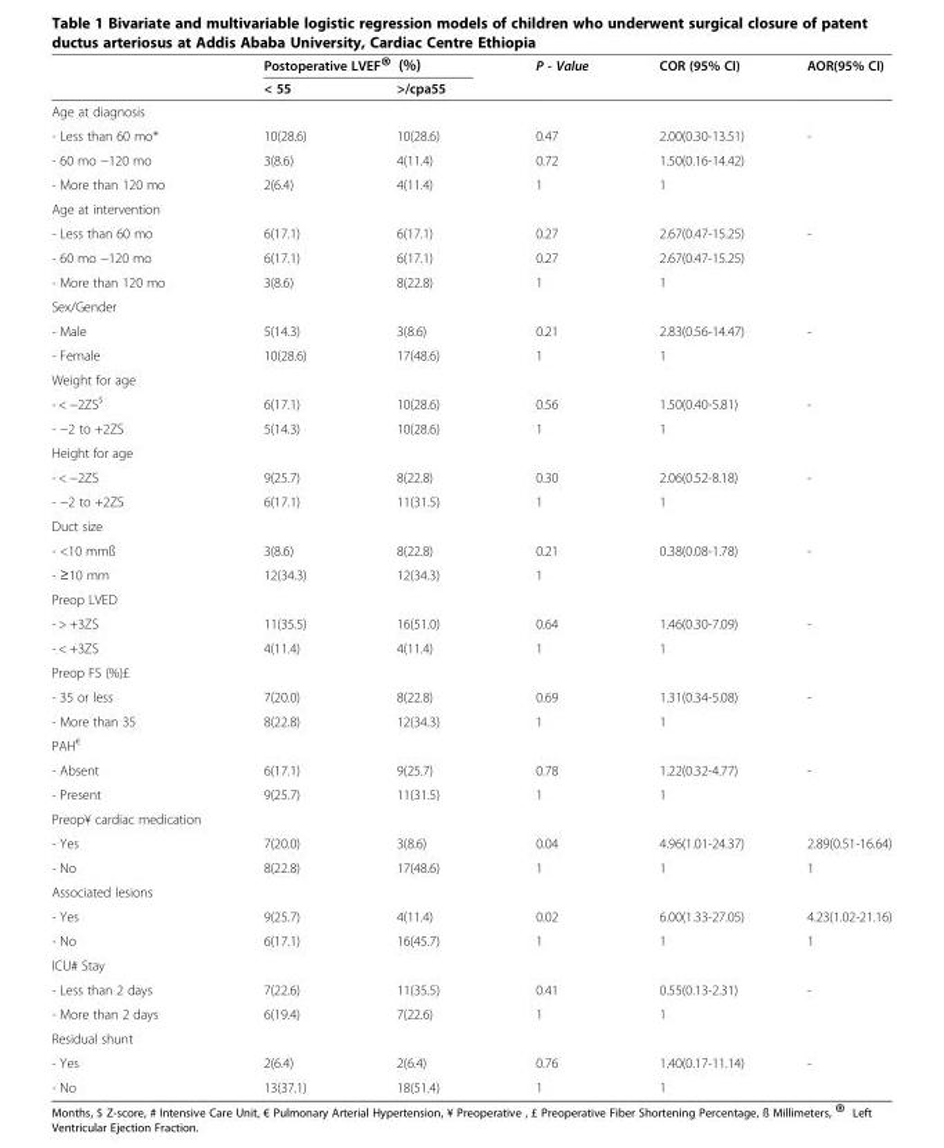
<table><thead><tr><td rowspan="2"></td><td colspan="2">Postoperative LVEF® (%)</td><td rowspan="2">P - Value</td><td rowspan="2">COR (95% CI)</td><td rowspan="2">AOR(95% CI)</td></tr><tr><td>&lt; 55</td><td>&gt;/cpa55</td></tr></thead><tbody><tr><td colspan="6">Age at diagnosis</td></tr><tr><td>- Less than 60 mo*</td><td>10(28.6)</td><td>10(28.6)</td><td>0.47</td><td>2.00(0.30-13.51)</td><td>-</td></tr><tr><td>- 60 mo −120 mo</td><td>3(8.6)</td><td>4(11.4)</td><td>0.72</td><td>1.50(0.16-14.42)</td><td></td></tr><tr><td>- More than 120 mo</td><td>2(6.4)</td><td>4(11.4)</td><td>1</td><td>1</td><td></td></tr><tr><td colspan="6">Age at intervention</td></tr><tr><td>- Less than 60 mo</td><td>6(17.1)</td><td>6(17.1)</td><td>0.27</td><td>2.67(0.47-15.25)</td><td>-</td></tr><tr><td>- 60 mo −120 mo</td><td>6(17.1)</td><td>6(17.1)</td><td>0.27</td><td>2.67(0.47-15.25)</td><td></td></tr><tr><td>- More than 120 mo</td><td>3(8.6)</td><td>8(22.8)</td><td>1</td><td>1</td><td></td></tr><tr><td colspan="6">Sex/Gender</td></tr><tr><td>- Male</td><td>5(14.3)</td><td>3(8.6)</td><td>0.21</td><td>2.83(0.56-14.47)</td><td>-</td></tr><tr><td>- Female</td><td>10(28.6)</td><td>17(48.6)</td><td>1</td><td>1</td><td></td></tr><tr><td colspan="6">Weight for age</td></tr><tr><td>- &lt; −2ZS<sup>$</sup></td><td>6(17.1)</td><td>10(28.6)</td><td>0.56</td><td>1.50(0.40-5.81)</td><td>-</td></tr><tr><td>- −2 to +2ZS</td><td>5(14.3)</td><td>10(28.6)</td><td>1</td><td>1</td><td></td></tr><tr><td colspan="6">Height for age</td></tr><tr><td>- &lt; −2ZS</td><td>9(25.7)</td><td>8(22.8)</td><td>0.30</td><td>2.06(0.52-8.18)</td><td>-</td></tr><tr><td>- −2 to +2ZS</td><td>6(17.1)</td><td>11(31.5)</td><td>1</td><td>1</td><td></td></tr><tr><td colspan="6">Duct size</td></tr><tr><td>- &lt;10 mmß</td><td>3(8.6)</td><td>8(22.8)</td><td>0.21</td><td>0.38(0.08-1.78)</td><td>-</td></tr><tr><td>- ≥10 mm</td><td>12(34.3)</td><td>12(34.3)</td><td>1</td><td></td><td></td></tr><tr><td colspan="6">Preop LVED</td></tr><tr><td>- &gt; +3ZS</td><td>11(35.5)</td><td>16(51.0)</td><td>0.64</td><td>1.46(0.30-7.09)</td><td>-</td></tr><tr><td>- &lt; +3ZS</td><td>4(11.4)</td><td>4(11.4)</td><td>1</td><td>1</td><td></td></tr><tr><td colspan="6">Preop FS (%)£</td></tr><tr><td>- 35 or less</td><td>7(20.0)</td><td>8(22.8)</td><td>0.69</td><td>1.31(0.34-5.08)</td><td>-</td></tr><tr><td>- More than 35</td><td>8(22.8)</td><td>12(34.3)</td><td>1</td><td>1</td><td></td></tr><tr><td colspan="6">PAH<sup>€</sup></td></tr><tr><td>- Absent</td><td>6(17.1)</td><td>9(25.7)</td><td>0.78</td><td>1.22(0.32-4.77)</td><td>-</td></tr><tr><td>- Present</td><td>9(25.7)</td><td>11(31.5)</td><td>1</td><td>1</td><td></td></tr><tr><td colspan="6">Preop¥ cardiac medication</td></tr><tr><td>- Yes</td><td>7(20.0)</td><td>3(8.6)</td><td>0.04</td><td>4.96(1.01-24.37)</td><td>2.89(0.51-16.64)</td></tr><tr><td>- No</td><td>8(22.8)</td><td>17(48.6)</td><td>1</td><td>1</td><td>1</td></tr><tr><td colspan="6">Associated lesions</td></tr><tr><td>- Yes</td><td>9(25.7)</td><td>4(11.4)</td><td>0.02</td><td>6.00(1.33-27.05)</td><td>4.23(1.02-21.16)</td></tr><tr><td>- No</td><td>6(17.1)</td><td>16(45.7)</td><td>1</td><td>1</td><td>1</td></tr><tr><td colspan="6">ICU# Stay</td></tr><tr><td>- Less than 2 days</td><td>7(22.6)</td><td>11(35.5)</td><td>0.41</td><td>0.55(0.13-2.31)</td><td>-</td></tr><tr><td>- More than 2 days</td><td>6(19.4)</td><td>7(22.6)</td><td>1</td><td>1</td><td></td></tr><tr><td colspan="6">Residual shunt</td></tr><tr><td>- Yes</td><td>2(6.4)</td><td>2(6.4)</td><td>0.76</td><td>1.40(0.17-11.14)</td><td>-</td></tr><tr><td>- No</td><td>13(37.1)</td><td>18(51.4)</td><td>1</td><td>1</td><td></td></tr></tbody></table>